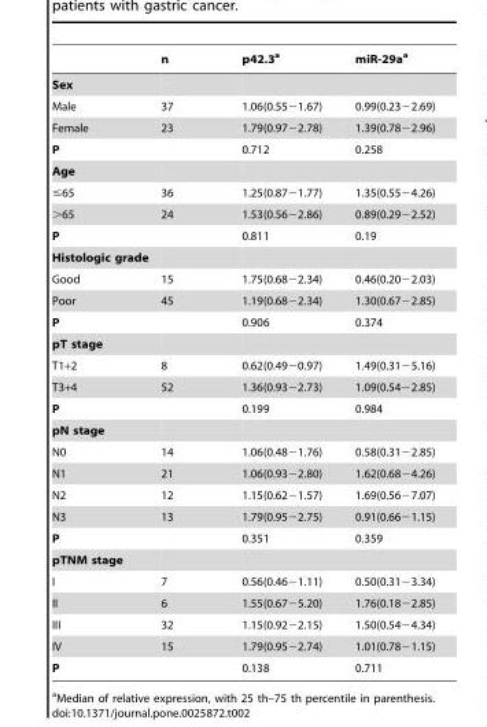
<table><thead><tr><td></td><td>n</td><td>p42.3<sup>a</sup></td><td>miR-29a<sup>a</sup></td></tr></thead><tbody><tr><td colspan="4">Sex</td></tr><tr><td>Male</td><td>37</td><td>1.06(0.55−1.67)</td><td>0.99(0.23−2.69)</td></tr><tr><td>Female</td><td>23</td><td>1.79(0.97−2.78)</td><td>1.39(0.78−2.96)</td></tr><tr><td>P</td><td></td><td>0.712</td><td>0.258</td></tr><tr><td colspan="4">Age</td></tr><tr><td>≤65</td><td>36</td><td>1.25(0.87−1.77)</td><td>1.35(0.55−4.26)</td></tr><tr><td>&gt;65</td><td>24</td><td>1.53(0.56−2.86)</td><td>0.89(0.29−2.52)</td></tr><tr><td>P</td><td></td><td>0.811</td><td>0.19</td></tr><tr><td colspan="4">Histologic grade</td></tr><tr><td>Good</td><td>15</td><td>1.75(0.68−2.34)</td><td>0.46(0.20−2.03)</td></tr><tr><td>Poor</td><td>45</td><td>1.19(0.68−2.34)</td><td>1.30(0.67−2.85)</td></tr><tr><td>P</td><td></td><td>0.906</td><td>0.374</td></tr><tr><td colspan="4">pT stage</td></tr><tr><td>T1+2</td><td>8</td><td>0.62(0.49−0.97)</td><td>1.49(0.31−5.16)</td></tr><tr><td>T3+4</td><td>52</td><td>1.36(0.93−2.73)</td><td>1.09(0.54−2.85)</td></tr><tr><td>P</td><td></td><td>0.199</td><td>0.984</td></tr><tr><td colspan="4">pN stage</td></tr><tr><td>N0</td><td>14</td><td>1.06(0.48−1.76)</td><td>0.58(0.31−2.85)</td></tr><tr><td>N1</td><td>21</td><td>1.06(0.93−2.80)</td><td>1.62(0.68−4.26)</td></tr><tr><td>N2</td><td>12</td><td>1.15(0.62−1.57)</td><td>1.69(0.56−7.07)</td></tr><tr><td>N3</td><td>13</td><td>1.79(0.95−2.75)</td><td>0.91(0.66−1.15)</td></tr><tr><td>P</td><td></td><td>0.351</td><td>0.359</td></tr><tr><td colspan="4">pTNM stage</td></tr><tr><td>I</td><td>7</td><td>0.56(0.46−1.11)</td><td>0.50(0.31−3.34)</td></tr><tr><td>II</td><td>6</td><td>1.55(0.67−5.20)</td><td>1.76(0.18−2.85)</td></tr><tr><td>III</td><td>32</td><td>1.15(0.92−2.15)</td><td>1.50(0.54−4.34)</td></tr><tr><td>IV</td><td>15</td><td>1.79(0.95−2.74)</td><td>1.01(0.78−1.15)</td></tr><tr><td>P</td><td></td><td>0.138</td><td>0.711</td></tr></tbody></table>